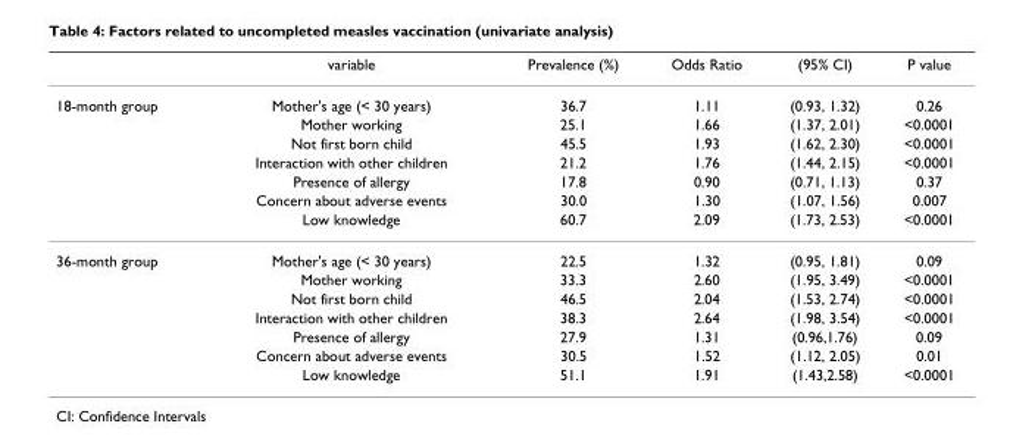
<table><thead><tr><td></td><td>variable</td><td>Prevalence (%)</td><td>Odds Ratio</td><td>(95% CI)</td><td>P value</td></tr></thead><tbody><tr><td rowspan="7">18-month group</td><td>Mother&#x27;s age (&lt; 30 years)</td><td>36.7</td><td>1.11</td><td>(0.93, 1.32)</td><td>0.26</td></tr><tr><td>Mother working</td><td>25.1</td><td>1.66</td><td>(1.37, 2.01)</td><td>&lt;0.0001</td></tr><tr><td>Not first born child</td><td>45.5</td><td>1.93</td><td>(1.62, 2.30)</td><td>&lt;0.0001</td></tr><tr><td>Interaction with other children</td><td>21.2</td><td>1.76</td><td>(1.44, 2.15)</td><td>&lt;0.0001</td></tr><tr><td>Presence of allergy</td><td>17.8</td><td>0.90</td><td>(0.71, 1.13)</td><td>0.37</td></tr><tr><td>Concern about adverse events</td><td>30.0</td><td>1.30</td><td>(1.07, 1.56)</td><td>0.007</td></tr><tr><td>Low knowledge</td><td>60.7</td><td>2.09</td><td>(1.73, 2.53)</td><td>&lt;0.0001</td></tr><tr><td rowspan="7">36-month group</td><td>Mother&#x27;s age (&lt; 30 years)</td><td>22.5</td><td>1.32</td><td>(0.95, 1.81)</td><td>0.09</td></tr><tr><td>Mother working</td><td>33.3</td><td>2.60</td><td>(1.95, 3.49)</td><td>&lt;0.0001</td></tr><tr><td>Not first born child</td><td>46.5</td><td>2.04</td><td>(1.53, 2.74)</td><td>&lt;0.0001</td></tr><tr><td>Interaction with other children</td><td>38.3</td><td>2.64</td><td>(1.98, 3.54)</td><td>&lt;0.0001</td></tr><tr><td>Presence of allergy</td><td>27.9</td><td>1.31</td><td>(0.96,1.76)</td><td>0.09</td></tr><tr><td>Concern about adverse events</td><td>30.5</td><td>1.52</td><td>(1.12, 2.05)</td><td>0.01</td></tr><tr><td>Low knowledge</td><td>51.1</td><td>1.91</td><td>(1.43,2.58)</td><td>&lt;0.0001</td></tr></tbody></table>